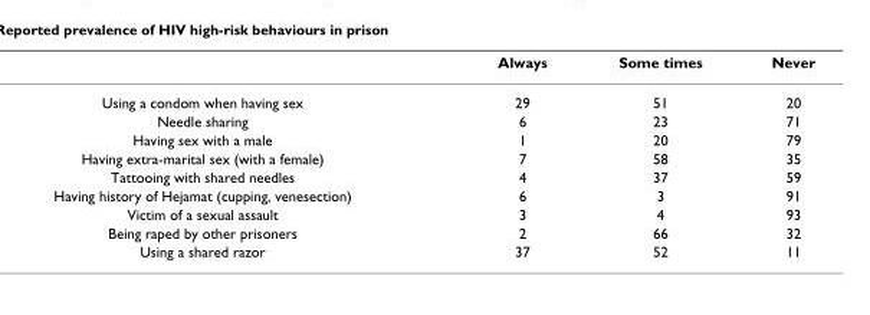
<table><thead><tr><td></td><td>Always</td><td>Some times</td><td>Never</td></tr></thead><tbody><tr><td>Using a condom when having sex</td><td>29</td><td>51</td><td>20</td></tr><tr><td>Needle sharing</td><td>6</td><td>23</td><td>71</td></tr><tr><td>Having sex with a male</td><td>1</td><td>20</td><td>79</td></tr><tr><td>Having extra-marital sex (with a female)</td><td>7</td><td>58</td><td>35</td></tr><tr><td>Tattooing with shared needles</td><td>4</td><td>37</td><td>59</td></tr><tr><td>Having history of Hejamat (cupping, venesection)</td><td>6</td><td>3</td><td>91</td></tr><tr><td>Victim of a sexual assault</td><td>3</td><td>4</td><td>93</td></tr><tr><td>Being raped by other prisoners</td><td>2</td><td>66</td><td>32</td></tr><tr><td>Using a shared razor</td><td>37</td><td>52</td><td>11</td></tr></tbody></table>